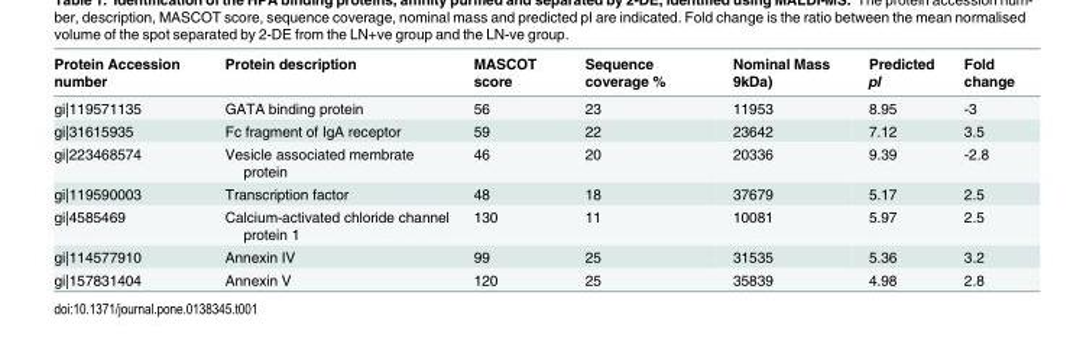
<table><thead><tr><td>Protein Accession number</td><td>Protein description</td><td>MASCOT score</td><td>Sequence coverage %</td><td>Nominal Mass 9kDa)</td><td>Predicted pl</td><td>Fold change</td></tr></thead><tbody><tr><td>gi|119571135</td><td>GATA binding protein</td><td>56</td><td>23</td><td>11953</td><td>8.95</td><td>-3</td></tr><tr><td>gi|31615935</td><td>Fc fragment of IgA receptor</td><td>59</td><td>22</td><td>23642</td><td>7.12</td><td>3.5</td></tr><tr><td>gi|223468574</td><td>Vesicle associated membrate protein</td><td>46</td><td>20</td><td>20336</td><td>9.39</td><td>-2.8</td></tr><tr><td>gi|119590003</td><td>Transcription factor</td><td>48</td><td>18</td><td>37679</td><td>5.17</td><td>2.5</td></tr><tr><td>gi|4585469</td><td>Calcium-activated chloride channel protein 1</td><td>130</td><td>11</td><td>10081</td><td>5.97</td><td>2.5</td></tr><tr><td>gi|114577910</td><td>Annexin IV</td><td>99</td><td>25</td><td>31535</td><td>5.36</td><td>3.2</td></tr><tr><td>gi|157831404</td><td>Annexin V</td><td>120</td><td>25</td><td>35839</td><td>4.98</td><td>2.8</td></tr></tbody></table>